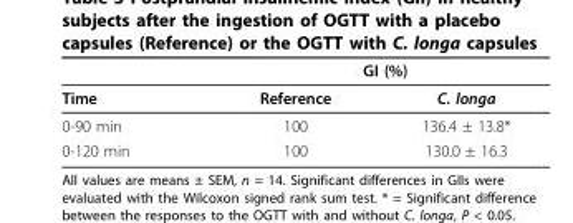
<table><thead><tr><td rowspan="2">Time</td><td colspan="2">GI (%)</td></tr><tr><td>Reference</td><td>C. longa</td></tr></thead><tbody><tr><td>0-90 min</td><td>100</td><td>136.4 ± 13.8*</td></tr><tr><td>0-120 min</td><td>100</td><td>130.0 ± 16.3</td></tr></tbody></table>